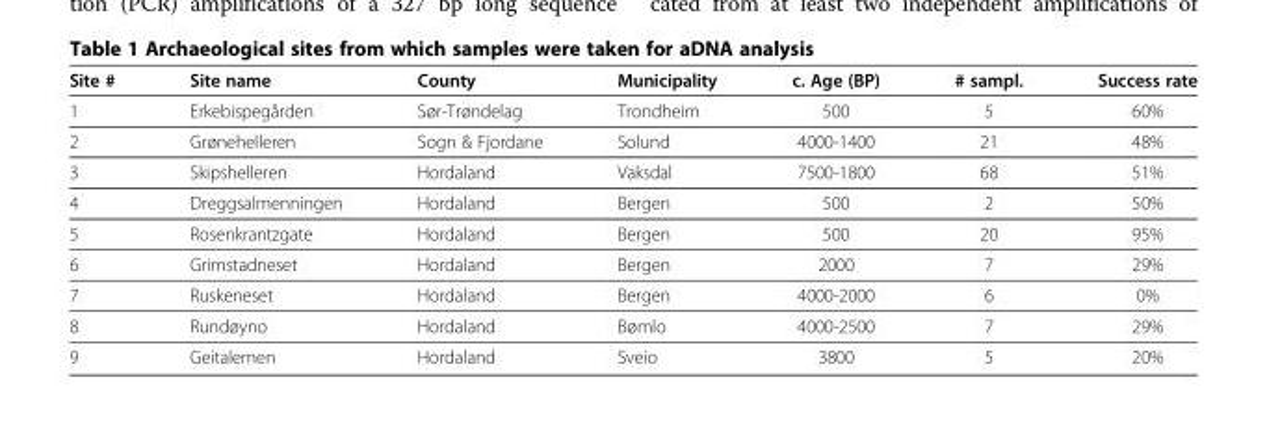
<table><thead><tr><td>Site #</td><td>Site name</td><td>County</td><td>Municipality</td><td>c. Age (BP)</td><td># sampl.</td><td>Success rate</td></tr></thead><tbody><tr><td>1</td><td>Erkebispegården</td><td>Sør-Trøndelag</td><td>Trondheim</td><td>500</td><td>5</td><td>60%</td></tr><tr><td>2</td><td>Grønehelleren</td><td>Sogn &amp; Fjordane</td><td>Solund</td><td>4000-1400</td><td>21</td><td>48%</td></tr><tr><td>3</td><td>Skipshelleren</td><td>Hordaland</td><td>Vaksdal</td><td>7500-1800</td><td>68</td><td>51%</td></tr><tr><td>4</td><td>Dreggsalmenningen</td><td>Hordaland</td><td>Bergen</td><td>500</td><td>2</td><td>50%</td></tr><tr><td>5</td><td>Rosenkrantzgate</td><td>Hordaland</td><td>Bergen</td><td>500</td><td>20</td><td>95%</td></tr><tr><td>6</td><td>Grimstadneset</td><td>Hordaland</td><td>Bergen</td><td>2000</td><td>7</td><td>29%</td></tr><tr><td>7</td><td>Ruskeneset</td><td>Hordaland</td><td>Bergen</td><td>4000-2000</td><td>6</td><td>0%</td></tr><tr><td>8</td><td>Rundøyno</td><td>Hordaland</td><td>Bømlo</td><td>4000-2500</td><td>7</td><td>29%</td></tr><tr><td>9</td><td>Geitalemen</td><td>Hordaland</td><td>Sveio</td><td>3800</td><td>5</td><td>20%</td></tr></tbody></table>